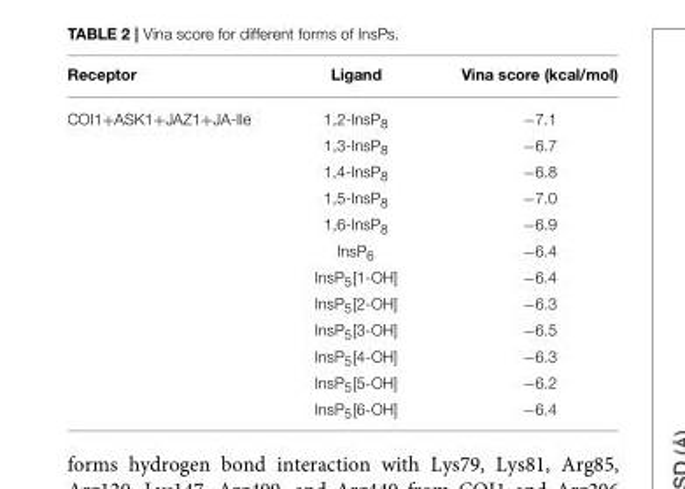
<table><thead><tr><td>Receptor</td><td>Ligand</td><td>Vina score (kcal/mol)</td></tr></thead><tbody><tr><td rowspan="12">COI1+ASK1+JAZ1+JA-Ile</td><td>1,2-InsP<sub>8</sub></td><td>−7.1</td></tr><tr><td>1,3-InsP<sub>8</sub></td><td>−6.7</td></tr><tr><td>1,4-InsP<sub>8</sub></td><td>−6.8</td></tr><tr><td>1,5-InsP<sub>8</sub></td><td>−7.0</td></tr><tr><td>1,6-InsP<sub>8</sub></td><td>−6.9</td></tr><tr><td>InsP<sub>6</sub></td><td>−6.4</td></tr><tr><td>InsP<sub>5</sub>[1-OH]</td><td>−6.4</td></tr><tr><td>InsP<sub>5</sub>[2-OH]</td><td>−6.3</td></tr><tr><td>InsP<sub>5</sub>[3-OH]</td><td>−6.5</td></tr><tr><td>InsP<sub>5</sub>[4-OH]</td><td>−6.3</td></tr><tr><td>InsP<sub>5</sub>[5-OH]</td><td>−6.2</td></tr><tr><td>InsP<sub>5</sub>[6-OH]</td><td>−6.4</td></tr></tbody></table>